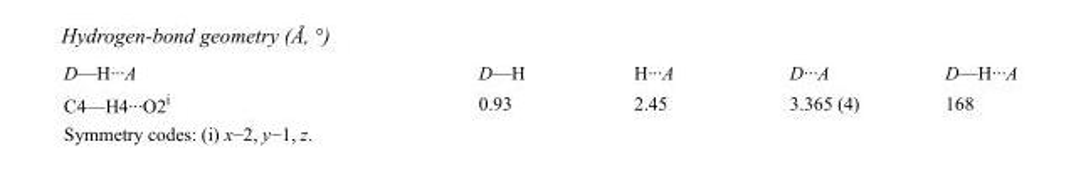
<table><tbody><tr><td>D—H···A</td><td>D—H</td><td>H···A</td><td>D···A</td><td>D—H···A</td></tr><tr><td>C4—H4···O2<sup>i</sup></td><td>0.93</td><td>2.45</td><td>3.365 (4)</td><td>168</td></tr></tbody></table>